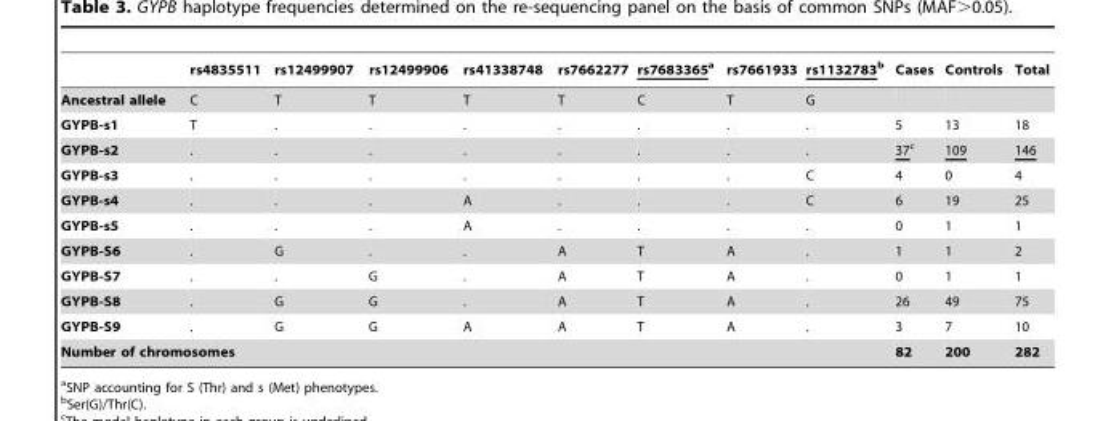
<table><thead><tr><td></td><td>rs4835511</td><td>rs12499907</td><td>rs12499906</td><td>rs41338748</td><td>rs7662277</td><td>rs7683365a</td><td>rs7661933</td><td>rs1132783b</td><td>Cases</td><td>Controls</td><td>Total</td></tr></thead><tbody><tr><td>Ancestral allele</td><td>C</td><td>T</td><td>T</td><td>T</td><td>T</td><td>C</td><td>T</td><td>G</td><td></td><td></td><td></td></tr><tr><td>GYPB-s1</td><td>T</td><td>.</td><td>.</td><td>.</td><td>.</td><td>.</td><td>.</td><td>.</td><td>5</td><td>13</td><td>18</td></tr><tr><td>GYPB-s2</td><td>.</td><td>.</td><td>.</td><td>.</td><td>.</td><td>.</td><td>.</td><td>.</td><td>37c</td><td>109</td><td>146</td></tr><tr><td>GYPB-s3</td><td>.</td><td>.</td><td>.</td><td>.</td><td>.</td><td>.</td><td>.</td><td>C</td><td>4</td><td>0</td><td>4</td></tr><tr><td>GYPB-s4</td><td>.</td><td>.</td><td>.</td><td>A</td><td>.</td><td>.</td><td>.</td><td>C</td><td>6</td><td>19</td><td>25</td></tr><tr><td>GYPB-s5</td><td>.</td><td>.</td><td>.</td><td>A</td><td>.</td><td>.</td><td>.</td><td>.</td><td>0</td><td>1</td><td>1</td></tr><tr><td>GYPB-S6</td><td>.</td><td>G</td><td>.</td><td>.</td><td>A</td><td>T</td><td>A</td><td>.</td><td>1</td><td>1</td><td>2</td></tr><tr><td>GYPB-S7</td><td>.</td><td>.</td><td>G</td><td>.</td><td>A</td><td>T</td><td>A</td><td>.</td><td>0</td><td>1</td><td>1</td></tr><tr><td>GYPB-S8</td><td>.</td><td>G</td><td>G</td><td>.</td><td>A</td><td>T</td><td>A</td><td>.</td><td>26</td><td>49</td><td>75</td></tr><tr><td>GYPB-S9</td><td>.</td><td>G</td><td>G</td><td>A</td><td>A</td><td>T</td><td>A</td><td>.</td><td>3</td><td>7</td><td>10</td></tr><tr><td colspan="9">Number of chromosomes</td><td>82</td><td>200</td><td>282</td></tr></tbody></table>